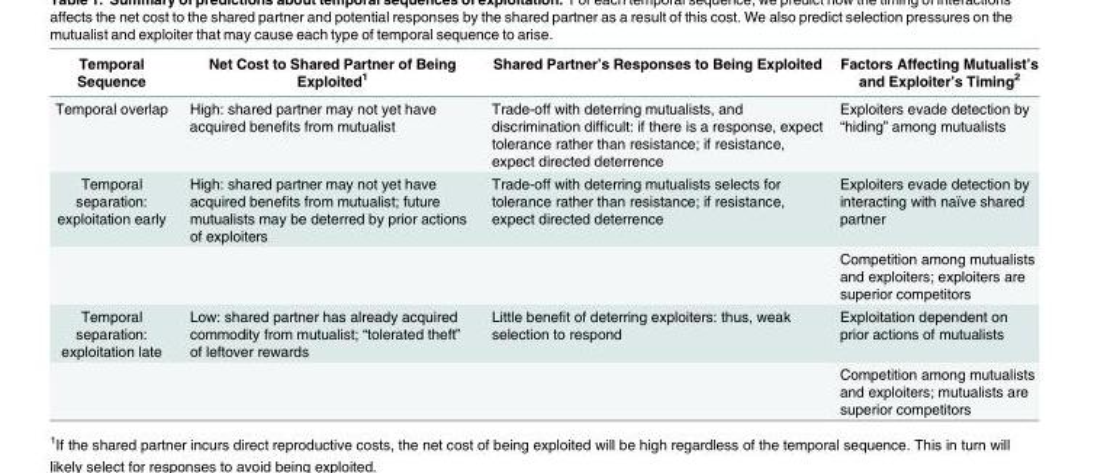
<table><thead><tr><td>Temporal Sequence</td><td>Net Cost to Shared Partner of Being Exploited<sup>1</sup></td><td>Shared Partner’s Responses to Being Exploited</td><td>Factors Affecting Mutualist’s and Exploiter’s Timing<sup>2</sup></td></tr></thead><tbody><tr><td>Temporal overlap</td><td>High: shared partner may not yet have acquired benefits from mutualist</td><td>Trade-off with deterring mutualists, and discrimination difficult: if there is a response, expect tolerance rather than resistance; if resistance, expect directed deterrence</td><td>Exploiters evade detection by “hiding” among mutualists</td></tr><tr><td rowspan="2">Temporal separation: exploitation early</td><td>High: shared partner may not yet have acquired benefits from mutualist; future mutualists may be deterred by prior actions of exploiters</td><td>Trade-off with deterring mutualists selects for tolerance rather than resistance; if resistance, expect directed deterrence</td><td>Exploiters evade detection by interacting with naïve shared partner</td></tr><tr><td></td><td></td><td>Competition among mutualists and exploiters; exploiters are superior competitors</td></tr><tr><td rowspan="2">Temporal separation: exploitation late</td><td>Low: shared partner has already acquired commodity from mutualist; “tolerated theft” of leftover rewards</td><td>Little benefit of deterring exploiters: thus, weak selection to respond</td><td>Exploitation dependent on prior actions of mutualists</td></tr><tr><td></td><td></td><td>Competition among mutualists and exploiters; mutualists are superior competitors</td></tr></tbody></table>